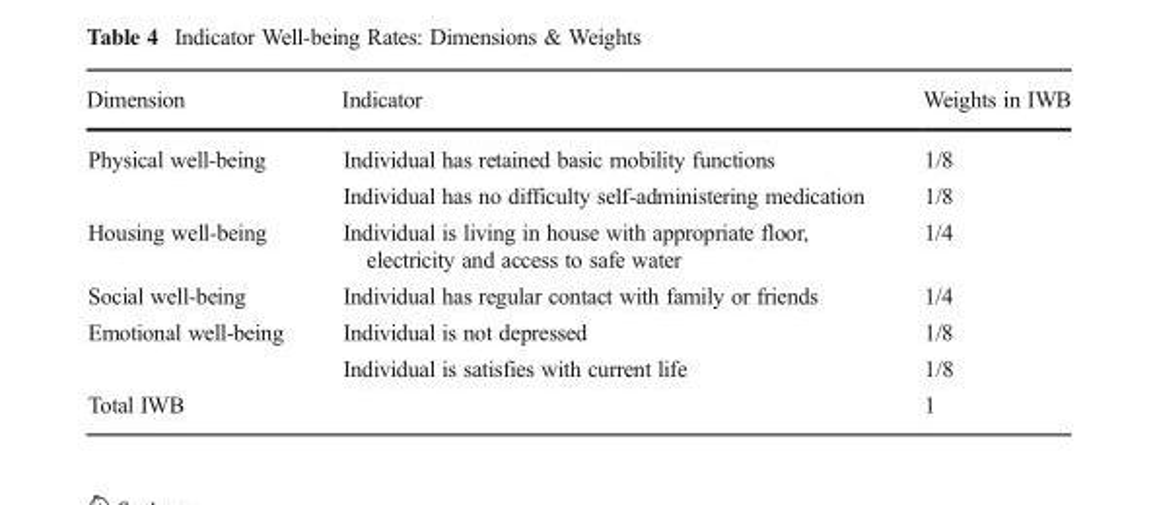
<table><thead><tr><td>Dimension</td><td>Indicator</td><td>Weights in IWB</td></tr></thead><tbody><tr><td rowspan="2">Physical well-being</td><td>Individual has retained basic mobility functions</td><td>1/8</td></tr><tr><td>Individual has no difficulty self-administering medication</td><td>1/8</td></tr><tr><td>Housing well-being</td><td>Individual is living in house with appropriate floor, electricity and access to safe water</td><td>1/4</td></tr><tr><td>Social well-being</td><td>Individual has regular contact with family or friends</td><td>1/4</td></tr><tr><td rowspan="2">Emotional well-being</td><td>Individual is not depressed</td><td>1/8</td></tr><tr><td>Individual is satisfies with current life</td><td>1/8</td></tr><tr><td>Total IWB</td><td></td><td>1</td></tr></tbody></table>